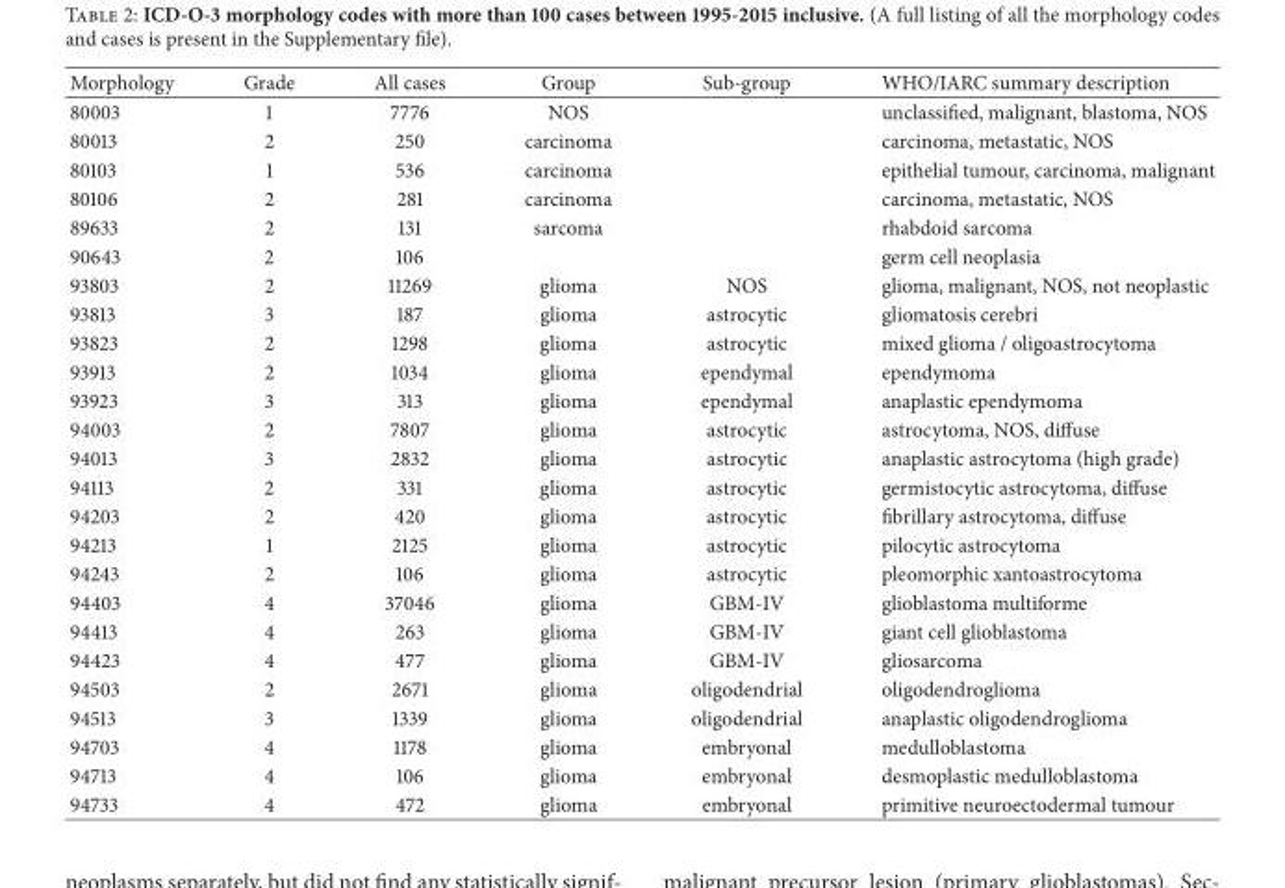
<table><thead><tr><td>Morphology</td><td>Grade</td><td>All cases</td><td>Group</td><td>Sub-group</td><td>WHO/IARC summary description</td></tr></thead><tbody><tr><td>80003</td><td>1</td><td>7776</td><td>NOS</td><td></td><td>unclassified, malignant, blastoma, NOS</td></tr><tr><td>80013</td><td>2</td><td>250</td><td>carcinoma</td><td></td><td>carcinoma, metastatic, NOS</td></tr><tr><td>80103</td><td>1</td><td>536</td><td>carcinoma</td><td></td><td>epithelial tumour, carcinoma, malignant</td></tr><tr><td>80106</td><td>2</td><td>281</td><td>carcinoma</td><td></td><td>carcinoma, metastatic, NOS</td></tr><tr><td>89633</td><td>2</td><td>131</td><td>sarcoma</td><td></td><td>rhabdoid sarcoma</td></tr><tr><td>90643</td><td>2</td><td>106</td><td></td><td></td><td>germ cell neoplasia</td></tr><tr><td>93803</td><td>2</td><td>11269</td><td>glioma</td><td>NOS</td><td>glioma, malignant, NOS, not neoplastic</td></tr><tr><td>93813</td><td>3</td><td>187</td><td>glioma</td><td>astrocytic</td><td>gliomatosis cerebri</td></tr><tr><td>93823</td><td>2</td><td>1298</td><td>glioma</td><td>astrocytic</td><td>mixed glioma / oligoastrocytoma</td></tr><tr><td>93913</td><td>2</td><td>1034</td><td>glioma</td><td>ependymal</td><td>ependymoma</td></tr><tr><td>93923</td><td>3</td><td>313</td><td>glioma</td><td>ependymal</td><td>anaplastic ependymoma</td></tr><tr><td>94003</td><td>2</td><td>7807</td><td>glioma</td><td>astrocytic</td><td>astrocytoma, NOS, diffuse</td></tr><tr><td>94013</td><td>3</td><td>2832</td><td>glioma</td><td>astrocytic</td><td>anaplastic astrocytoma (high grade)</td></tr><tr><td>94113</td><td>2</td><td>331</td><td>glioma</td><td>astrocytic</td><td>germistocytic astrocytoma, diffuse</td></tr><tr><td>94203</td><td>2</td><td>420</td><td>glioma</td><td>astrocytic</td><td>fibrillary astrocytoma, diffuse</td></tr><tr><td>94213</td><td>1</td><td>2125</td><td>glioma</td><td>astrocytic</td><td>pilocytic astrocytoma</td></tr><tr><td>94243</td><td>2</td><td>106</td><td>glioma</td><td>astrocytic</td><td>pleomorphic xantoastrocytoma</td></tr><tr><td>94403</td><td>4</td><td>37046</td><td>glioma</td><td>GBM-IV</td><td>glioblastoma multiforme</td></tr><tr><td>94413</td><td>4</td><td>263</td><td>glioma</td><td>GBM-IV</td><td>giant cell glioblastoma</td></tr><tr><td>94423</td><td>4</td><td>477</td><td>glioma</td><td>GBM-IV</td><td>gliosarcoma</td></tr><tr><td>94503</td><td>2</td><td>2671</td><td>glioma</td><td>oligodendrial</td><td>oligodendroglioma</td></tr><tr><td>94513</td><td>3</td><td>1339</td><td>glioma</td><td>oligodendrial</td><td>anaplastic oligodendroglioma</td></tr><tr><td>94703</td><td>4</td><td>1178</td><td>glioma</td><td>embryonal</td><td>medulloblastoma</td></tr><tr><td>94713</td><td>4</td><td>106</td><td>glioma</td><td>embryonal</td><td>desmoplastic medulloblastoma</td></tr><tr><td>94733</td><td>4</td><td>472</td><td>glioma</td><td>embryonal</td><td>primitive neuroectodermal tumour</td></tr></tbody></table>